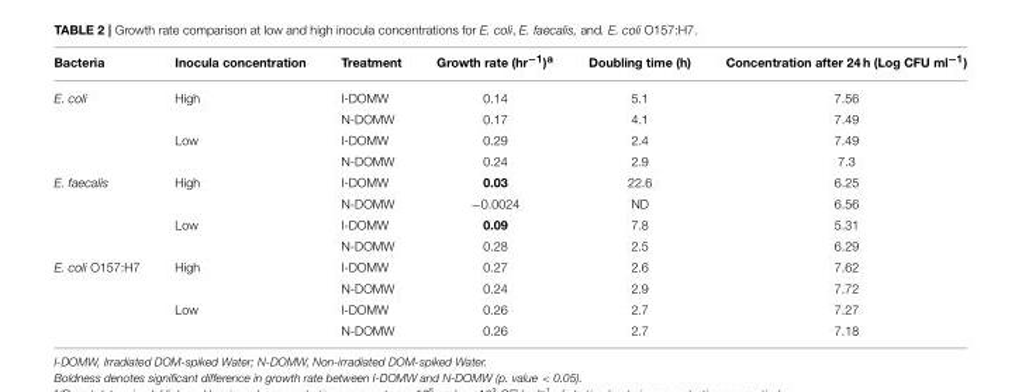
<table><thead><tr><td>Bacteria</td><td>Inocula concentration</td><td>Treatment</td><td>Growth rate (hr<sup>−1</sup>)<sup>a</sup></td><td>Doubling time (h)</td><td>Concentration after 24 h (Log CFU ml<sup>−1</sup>)</td></tr></thead><tbody><tr><td rowspan="4">E. coli</td><td>High</td><td>I-DOMW</td><td>0.14</td><td>5.1</td><td>7.56</td></tr><tr><td></td><td>N-DOMW</td><td>0.17</td><td>4.1</td><td>7.49</td></tr><tr><td>Low</td><td>I-DOMW</td><td>0.29</td><td>2.4</td><td>7.49</td></tr><tr><td></td><td>N-DOMW</td><td>0.24</td><td>2.9</td><td>7.3</td></tr><tr><td rowspan="4">E. faecalis</td><td>High</td><td>I-DOMW</td><td>0.03</td><td>22.6</td><td>6.25</td></tr><tr><td></td><td>N-DOMW</td><td>−0.0024</td><td>ND</td><td>6.56</td></tr><tr><td>Low</td><td>I-DOMW</td><td>0.09</td><td>7.8</td><td>5.31</td></tr><tr><td></td><td>N-DOMW</td><td>0.28</td><td>2.5</td><td>6.29</td></tr><tr><td rowspan="4">E. coli O157:H7</td><td>High</td><td>I-DOMW</td><td>0.27</td><td>2.6</td><td>7.62</td></tr><tr><td></td><td>N-DOMW</td><td>0.24</td><td>2.9</td><td>7.72</td></tr><tr><td>Low</td><td>I-DOMW</td><td>0.26</td><td>2.7</td><td>7.27</td></tr><tr><td></td><td>N-DOMW</td><td>0.26</td><td>2.7</td><td>7.18</td></tr></tbody></table>